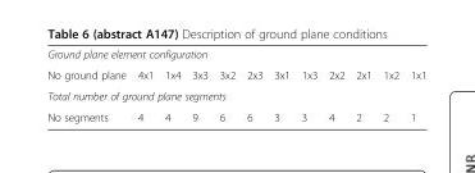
<table><tbody><tr><td colspan="12">Ground plane element configuration</td></tr><tr><td>No ground plane</td><td>4x1</td><td>1x4</td><td>3x3</td><td>3x2</td><td>2x3</td><td>3x1</td><td>1x3</td><td>2x2</td><td>2x1</td><td>1x2</td><td>1x1</td></tr><tr><td colspan="12">Total number of ground plane segments</td></tr><tr><td>No segments</td><td>4</td><td>4</td><td>9</td><td>6</td><td>6</td><td>3</td><td>3</td><td>4</td><td>2</td><td>2</td><td>1</td></tr></tbody></table>